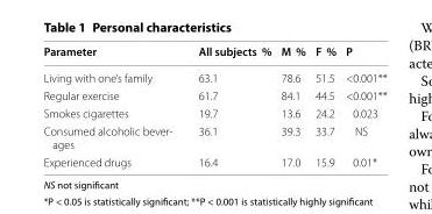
<table><thead><tr><td>Parameter</td><td>All subjects %</td><td>M %</td><td>F %</td><td>P</td></tr></thead><tbody><tr><td>Living with one’s family</td><td>63.1</td><td>78.6</td><td>51.5</td><td>&lt;0.001**</td></tr><tr><td>Regular exercise</td><td>61.7</td><td>84.1</td><td>44.5</td><td>&lt;0.001**</td></tr><tr><td>Smokes cigarettes</td><td>19.7</td><td>13.6</td><td>24.2</td><td>0.023</td></tr><tr><td>Consumed alcoholic bever- ages</td><td>36.1</td><td>39.3</td><td>33.7</td><td>NS</td></tr><tr><td>Experienced drugs</td><td>16.4</td><td>17.0</td><td>15.9</td><td>0.01*</td></tr></tbody></table>